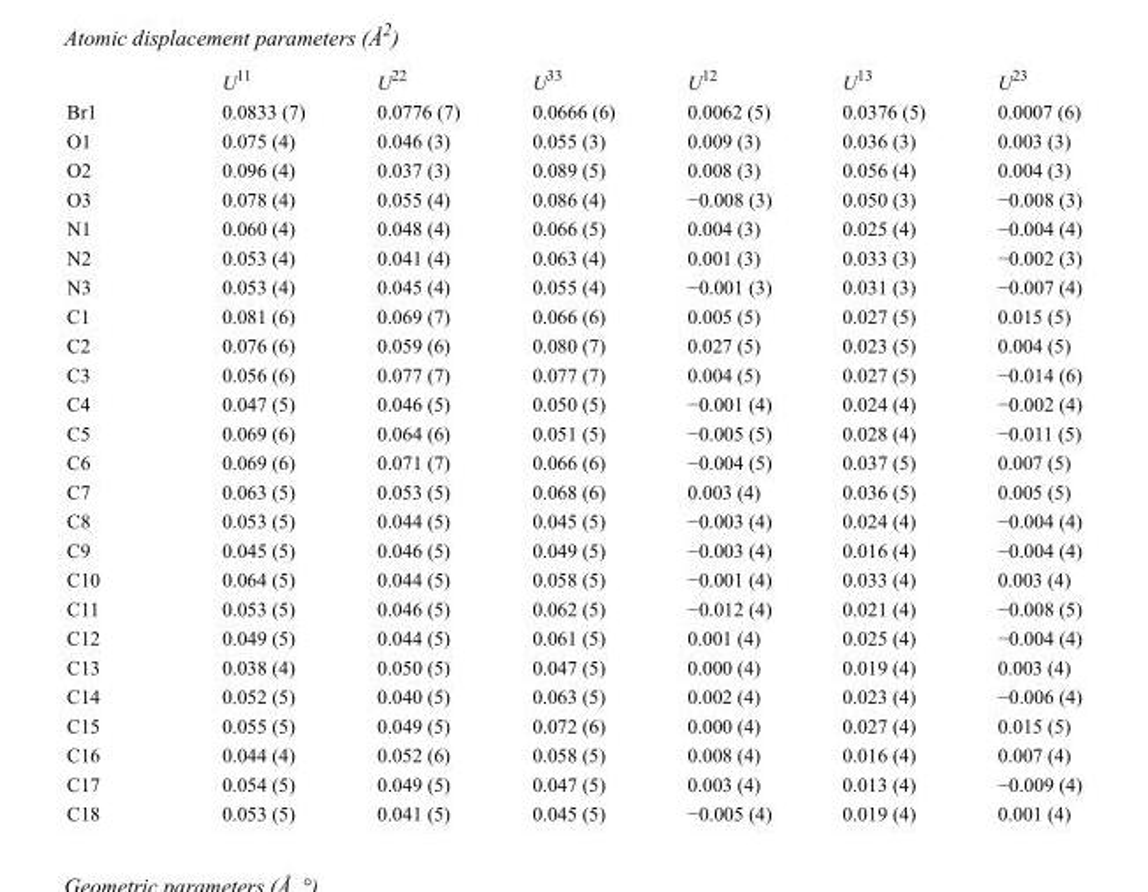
<table><thead><tr><td></td><td>U<sup>11</sup></td><td>U<sup>22</sup></td><td>U<sup>33</sup></td><td>U<sup>12</sup></td><td>U<sup>13</sup></td><td>U<sup>23</sup></td></tr></thead><tbody><tr><td>Br1</td><td>0.0833 (7)</td><td>0.0776 (7)</td><td>0.0666 (6)</td><td>0.0062 (5)</td><td>0.0376 (5)</td><td>0.0007 (6)</td></tr><tr><td>O1</td><td>0.075 (4)</td><td>0.046 (3)</td><td>0.055 (3)</td><td>0.009 (3)</td><td>0.036 (3)</td><td>0.003 (3)</td></tr><tr><td>O2</td><td>0.096 (4)</td><td>0.037 (3)</td><td>0.089 (5)</td><td>0.008 (3)</td><td>0.056 (4)</td><td>0.004 (3)</td></tr><tr><td>O3</td><td>0.078 (4)</td><td>0.055 (4)</td><td>0.086 (4)</td><td>−0.008 (3)</td><td>0.050 (3)</td><td>−0.008 (3)</td></tr><tr><td>N1</td><td>0.060 (4)</td><td>0.048 (4)</td><td>0.066 (5)</td><td>0.004 (3)</td><td>0.025 (4)</td><td>−0.004 (4)</td></tr><tr><td>N2</td><td>0.053 (4)</td><td>0.041 (4)</td><td>0.063 (4)</td><td>0.001 (3)</td><td>0.033 (3)</td><td>−0.002 (3)</td></tr><tr><td>N3</td><td>0.053 (4)</td><td>0.045 (4)</td><td>0.055 (4)</td><td>−0.001 (3)</td><td>0.031 (3)</td><td>−0.007 (4)</td></tr><tr><td>C1</td><td>0.081 (6)</td><td>0.069 (7)</td><td>0.066 (6)</td><td>0.005 (5)</td><td>0.027 (5)</td><td>0.015 (5)</td></tr><tr><td>C2</td><td>0.076 (6)</td><td>0.059 (6)</td><td>0.080 (7)</td><td>0.027 (5)</td><td>0.023 (5)</td><td>0.004 (5)</td></tr><tr><td>C3</td><td>0.056 (6)</td><td>0.077 (7)</td><td>0.077 (7)</td><td>0.004 (5)</td><td>0.027 (5)</td><td>−0.014 (6)</td></tr><tr><td>C4</td><td>0.047 (5)</td><td>0.046 (5)</td><td>0.050 (5)</td><td>−0.001 (4)</td><td>0.024 (4)</td><td>−0.002 (4)</td></tr><tr><td>C5</td><td>0.069 (6)</td><td>0.064 (6)</td><td>0.051 (5)</td><td>−0.005 (5)</td><td>0.028 (4)</td><td>−0.011 (5)</td></tr><tr><td>C6</td><td>0.069 (6)</td><td>0.071 (7)</td><td>0.066 (6)</td><td>−0.004 (5)</td><td>0.037 (5)</td><td>0.007 (5)</td></tr><tr><td>C7</td><td>0.063 (5)</td><td>0.053 (5)</td><td>0.068 (6)</td><td>0.003 (4)</td><td>0.036 (5)</td><td>0.005 (5)</td></tr><tr><td>C8</td><td>0.053 (5)</td><td>0.044 (5)</td><td>0.045 (5)</td><td>−0.003 (4)</td><td>0.024 (4)</td><td>−0.004 (4)</td></tr><tr><td>C9</td><td>0.045 (5)</td><td>0.046 (5)</td><td>0.049 (5)</td><td>−0.003 (4)</td><td>0.016 (4)</td><td>−0.004 (4)</td></tr><tr><td>C10</td><td>0.064 (5)</td><td>0.044 (5)</td><td>0.058 (5)</td><td>−0.001 (4)</td><td>0.033 (4)</td><td>0.003 (4)</td></tr><tr><td>C11</td><td>0.053 (5)</td><td>0.046 (5)</td><td>0.062 (5)</td><td>−0.012 (4)</td><td>0.021 (4)</td><td>−0.008 (5)</td></tr><tr><td>C12</td><td>0.049 (5)</td><td>0.044 (5)</td><td>0.061 (5)</td><td>0.001 (4)</td><td>0.025 (4)</td><td>−0.004 (4)</td></tr><tr><td>C13</td><td>0.038 (4)</td><td>0.050 (5)</td><td>0.047 (5)</td><td>0.000 (4)</td><td>0.019 (4)</td><td>0.003 (4)</td></tr><tr><td>C14</td><td>0.052 (5)</td><td>0.040 (5)</td><td>0.063 (5)</td><td>0.002 (4)</td><td>0.023 (4)</td><td>−0.006 (4)</td></tr><tr><td>C15</td><td>0.055 (5)</td><td>0.049 (5)</td><td>0.072 (6)</td><td>0.000 (4)</td><td>0.027 (4)</td><td>0.015 (5)</td></tr><tr><td>C16</td><td>0.044 (4)</td><td>0.052 (6)</td><td>0.058 (5)</td><td>0.008 (4)</td><td>0.016 (4)</td><td>0.007 (4)</td></tr><tr><td>C17</td><td>0.054 (5)</td><td>0.049 (5)</td><td>0.047 (5)</td><td>0.003 (4)</td><td>0.013 (4)</td><td>−0.009 (4)</td></tr><tr><td>C18</td><td>0.053 (5)</td><td>0.041 (5)</td><td>0.045 (5)</td><td>−0.005 (4)</td><td>0.019 (4)</td><td>0.001 (4)</td></tr></tbody></table>